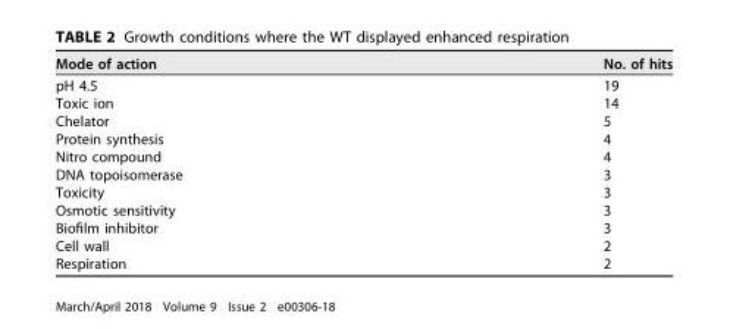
<table><thead><tr><td>Mode of action</td><td>No. of hits</td></tr></thead><tbody><tr><td>pH 4.5</td><td>19</td></tr><tr><td>Toxic ion</td><td>14</td></tr><tr><td>Chelator</td><td>5</td></tr><tr><td>Protein synthesis</td><td>4</td></tr><tr><td>Nitro compound</td><td>4</td></tr><tr><td>DNA topoisomerase</td><td>3</td></tr><tr><td>Toxicity</td><td>3</td></tr><tr><td>Osmotic sensitivity</td><td>3</td></tr><tr><td>Biofilm inhibitor</td><td>3</td></tr><tr><td>Cell wall</td><td>2</td></tr><tr><td>Respiration</td><td>2</td></tr></tbody></table>